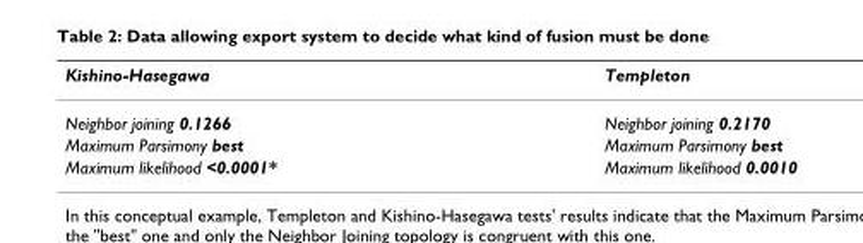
<table><thead><tr><td>Kishino-Hasegawa</td><td>Templeton</td></tr></thead><tbody><tr><td>Neighbor joining 0.1266</td><td>Neighbor joining 0.2170</td></tr><tr><td>Maximum Parsimony best</td><td>Maximum Parsimony best</td></tr><tr><td>Maximum likelihood &lt;0.0001*</td><td>Maximum likelihood 0.0010</td></tr></tbody></table>